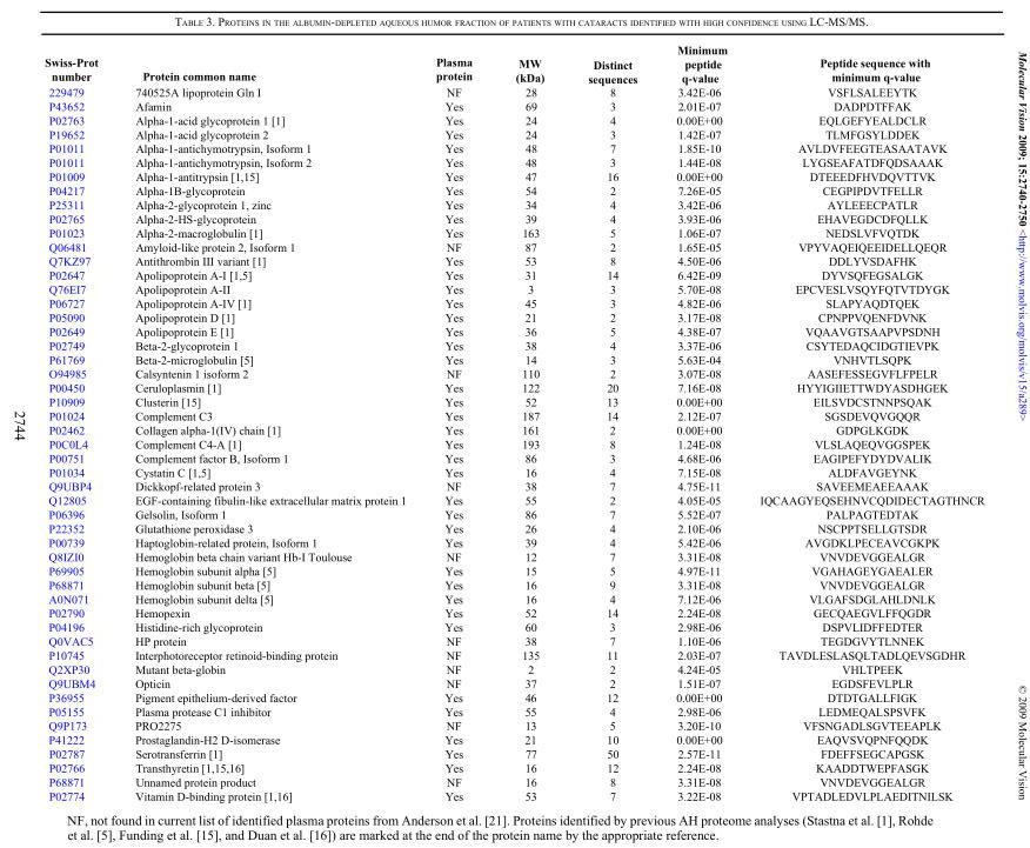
<table><thead><tr><td>Swiss-Prot number</td><td>Protein common name</td><td>Plasma protein</td><td>MW (kDa)</td><td>Distinct sequences</td><td>Minimum peptide q-value</td><td>Peptide sequence with minimum q-value</td></tr></thead><tbody><tr><td>229479</td><td>740525A lipoprotein Gln I</td><td>NF</td><td>28</td><td>8</td><td>3.42E-06</td><td>VSFLSALEEYTK</td></tr><tr><td>P43652</td><td>Afamin</td><td>Yes</td><td>69</td><td>3</td><td>2.01E-07</td><td>DADPDTFFAK</td></tr><tr><td>P02763</td><td>Alpha-1-acid glycoprotein 1 [1]</td><td>Yes</td><td>24</td><td>4</td><td>0.00E+00</td><td>EQLGEFYEALDCLR</td></tr><tr><td>P19652</td><td>Alpha-1-acid glycoprotein 2</td><td>Yes</td><td>24</td><td>3</td><td>1.42E-07</td><td>TLMFGSYLDDEK</td></tr><tr><td>P01011</td><td>Alpha-1-antichymotrypsin, Isoform 1</td><td>Yes</td><td>48</td><td>7</td><td>1.85E-10</td><td>AVLDVFEEGTEASAATAVK</td></tr><tr><td>P01011</td><td>Alpha-1-antichymotrypsin, Isoform 2</td><td>Yes</td><td>48</td><td>3</td><td>1.44E-08</td><td>LYGSEAFATDFQDSAAAK</td></tr><tr><td>P01009</td><td>Alpha-1-antitrypsin [1,15]</td><td>Yes</td><td>47</td><td>16</td><td>0.00E+00</td><td>DTEEEDFHVDQVTTVK</td></tr><tr><td>P04217</td><td>Alpha-1B-glycoprotein</td><td>Yes</td><td>54</td><td>2</td><td>7.26E-05</td><td>CEGPIPDVTFELLR</td></tr><tr><td>P25311</td><td>Alpha-2-glycoprotein 1, zinc</td><td>Yes</td><td>34</td><td>4</td><td>3.42E-06</td><td>AYLEEECPATLR</td></tr><tr><td>P02765</td><td>Alpha-2-HS-glycoprotein</td><td>Yes</td><td>39</td><td>4</td><td>3.93E-06</td><td>EHAVEGDCDFQLLK</td></tr><tr><td>P01023</td><td>Alpha-2-macroglobulin [1]</td><td>Yes</td><td>163</td><td>5</td><td>1.06E-07</td><td>NEDSLVFVQTDK</td></tr><tr><td>Q06481</td><td>Amyloid-like protein 2, Isoform 1</td><td>NF</td><td>87</td><td>2</td><td>1.65E-05</td><td>VPYVAQEIQEEIDELLQEQR</td></tr><tr><td>Q7KZ97</td><td>Antithrombin III variant [1]</td><td>Yes</td><td>53</td><td>8</td><td>4.50E-06</td><td>DDLYVSDAFHK</td></tr><tr><td>P02647</td><td>Apolipoprotein A-I [1,5]</td><td>Yes</td><td>31</td><td>14</td><td>6.42E-09</td><td>DYVSQFEGSALGK</td></tr><tr><td>Q76EI7</td><td>Apolipoprotein A-II</td><td>Yes</td><td>3</td><td>3</td><td>5.70E-08</td><td>EPCVESLVSQYFQTVTDYGK</td></tr><tr><td>P06727</td><td>Apolipoprotein A-IV [1]</td><td>Yes</td><td>45</td><td>3</td><td>4.82E-06</td><td>SLAPYAQDTQEK</td></tr><tr><td>P05090</td><td>Apolipoprotein D [1]</td><td>Yes</td><td>21</td><td>2</td><td>3.17E-08</td><td>CPNPPVQENFDVNK</td></tr><tr><td>P02649</td><td>Apolipoprotein E [1]</td><td>Yes</td><td>36</td><td>5</td><td>4.38E-07</td><td>VQAAVGTSAAPVPSDNH</td></tr><tr><td>P02749</td><td>Beta-2-glycoprotein 1</td><td>Yes</td><td>38</td><td>4</td><td>3.37E-06</td><td>CSYTEDAQCIDGTIEVPK</td></tr><tr><td>P61769</td><td>Beta-2-microglobulin [5]</td><td>Yes</td><td>14</td><td>3</td><td>5.63E-04</td><td>VNHVTLSQPK</td></tr><tr><td>O94985</td><td>Calsyntenin 1 isoform 2</td><td>NF</td><td>110</td><td>2</td><td>3.07E-08</td><td>AASEFESSEGVFLFPELR</td></tr><tr><td>P00450</td><td>Ceruloplasmin [1]</td><td>Yes</td><td>122</td><td>20</td><td>7.16E-08</td><td>HYYIGIIETTWDYASDHGEK</td></tr><tr><td>P10909</td><td>Clusterin [15]</td><td>Yes</td><td>52</td><td>13</td><td>0.00E+00</td><td>EILSVDCSTNNPSQAK</td></tr><tr><td>P01024</td><td>Complement C3</td><td>Yes</td><td>187</td><td>14</td><td>2.12E-07</td><td>SGSDEVQVGQQR</td></tr><tr><td>P02462</td><td>Collagen alpha-1(IV) chain [1]</td><td>Yes</td><td>161</td><td>2</td><td>0.00E+00</td><td>GDPGLKGDK</td></tr><tr><td>P0C0L4</td><td>Complement C4-A [1]</td><td>Yes</td><td>193</td><td>8</td><td>1.24E-08</td><td>VLSLAQEQVGGSPEK</td></tr><tr><td>P00751</td><td>Complement factor B, Isoform 1</td><td>Yes</td><td>86</td><td>3</td><td>4.68E-06</td><td>EAGIPEFYDYDVALIK</td></tr><tr><td>P01034</td><td>Cystatin C [1,5]</td><td>Yes</td><td>16</td><td>4</td><td>7.15E-08</td><td>ALDFAVGEYNK</td></tr><tr><td>Q9UBP4</td><td>Dickkopf-related protein 3</td><td>NF</td><td>38</td><td>7</td><td>4.75E-11</td><td>SAVEEMEAEEAAAK</td></tr><tr><td>Q12805</td><td>EGF-containing fibulin-like extracellular matrix protein 1</td><td>Yes</td><td>55</td><td>2</td><td>4.05E-05</td><td>IQCAAGYEQSEHNVCQDIDECTAGTHNCR</td></tr><tr><td>P06396</td><td>Gelsolin, Isoform 1</td><td>Yes</td><td>86</td><td>7</td><td>5.52E-07</td><td>PALPAGTEDTAK</td></tr><tr><td>P22352</td><td>Glutathione peroxidase 3</td><td>Yes</td><td>26</td><td>4</td><td>2.10E-06</td><td>NSCPPTSELLGTSDR</td></tr><tr><td>P00739</td><td>Haptoglobin-related protein, Isoform 1</td><td>Yes</td><td>39</td><td>4</td><td>5.42E-06</td><td>AVGDKLPECEAVCGKPK</td></tr><tr><td>Q8IZI0</td><td>Hemoglobin beta chain variant Hb-I Toulouse</td><td>NF</td><td>12</td><td>7</td><td>3.31E-08</td><td>VNVDEVGGEALGR</td></tr><tr><td>P69905</td><td>Hemoglobin subunit alpha [5]</td><td>Yes</td><td>15</td><td>5</td><td>4.97E-11</td><td>VGAHAGEYGAEALER</td></tr><tr><td>P68871</td><td>Hemoglobin subunit beta [5]</td><td>Yes</td><td>16</td><td>9</td><td>3.31E-08</td><td>VNVDEVGGEALGR</td></tr><tr><td>A0N071</td><td>Hemoglobin subunit delta [5]</td><td>Yes</td><td>16</td><td>4</td><td>7.12E-06</td><td>VLGAFSDGLAHLDNLK</td></tr><tr><td>P02790</td><td>Hemopexin</td><td>Yes</td><td>52</td><td>14</td><td>2.24E-08</td><td>GECQAEGVLFFQGDR</td></tr><tr><td>P04196</td><td>Histidine-rich glycoprotein</td><td>Yes</td><td>60</td><td>3</td><td>2.98E-06</td><td>DSPVLIDFFEDTER</td></tr><tr><td>Q0VAC5</td><td>HP protein</td><td>NF</td><td>38</td><td>7</td><td>1.10E-06</td><td>TEGDGVYTLNNEK</td></tr><tr><td>P10745</td><td>Interphotoreceptor retinoid-binding protein</td><td>NF</td><td>135</td><td>11</td><td>2.03E-07</td><td>TAVDLESLASQLTADLQEVSGDHR</td></tr><tr><td>Q2XP30</td><td>Mutant beta-globin</td><td>NF</td><td>2</td><td>2</td><td>4.24E-05</td><td>VHLTPEEK</td></tr><tr><td>Q9UBM4</td><td>Opticin</td><td>NF</td><td>37</td><td>2</td><td>1.51E-07</td><td>EGDSFEVLPLR</td></tr><tr><td>P36955</td><td>Pigment epithelium-derived factor</td><td>Yes</td><td>46</td><td>12</td><td>0.00E+00</td><td>DTDTGALLFIGK</td></tr><tr><td>P05155</td><td>Plasma protease C1 inhibitor</td><td>Yes</td><td>55</td><td>4</td><td>2.98E-06</td><td>LEDMEQALSPSVFK</td></tr><tr><td>Q9P173</td><td>PRO2275</td><td>NF</td><td>13</td><td>5</td><td>3.20E-10</td><td>VFSNGADLSGVTEEAPLK</td></tr><tr><td>P41222</td><td>Prostaglandin-H2 D-isomerase</td><td>Yes</td><td>21</td><td>10</td><td>0.00E+00</td><td>EAQVSVQPNFQQDK</td></tr><tr><td>P02787</td><td>Serotransferrin [1]</td><td>Yes</td><td>77</td><td>50</td><td>2.57E-11</td><td>FDEFFSEGCAPGSK</td></tr><tr><td>P02766</td><td>Transthyretin [1,15,16]</td><td>Yes</td><td>16</td><td>12</td><td>2.24E-08</td><td>KAADDTWEPFASGK</td></tr><tr><td>P68871</td><td>Unnamed protein product</td><td>NF</td><td>16</td><td>8</td><td>3.31E-08</td><td>VNVDEVGGEALGR</td></tr><tr><td>P02774</td><td>Vitamin D-binding protein [1,16]</td><td>Yes</td><td>53</td><td>7</td><td>3.22E-08</td><td>VPTADLEDVLPLAEDITNILSK</td></tr></tbody></table>